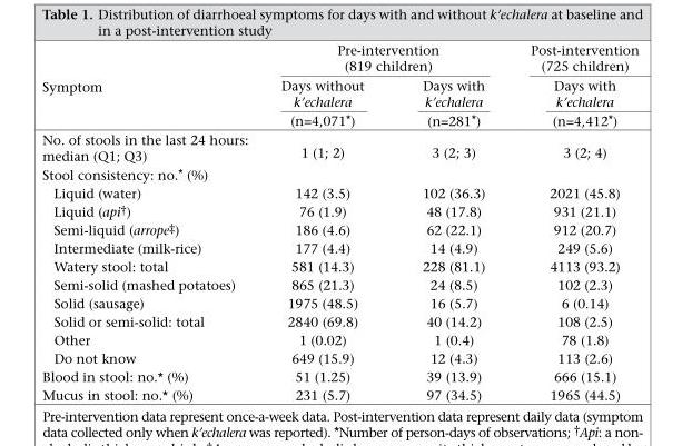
<table><thead><tr><td rowspan="3">Symptom</td><td colspan="2">Pre-intervention (819 children)</td><td rowspan="3">Post-intervention (725 children) Days with k’echalera (n=4,412*)</td></tr><tr><td rowspan="2">Days without k’echalera (n=4,071*)</td><td rowspan="2">Days with k’echalera (n=281*)</td></tr><tr></tr></thead><tbody><tr><td>No. of stools in the last 24 hours: median (Q1; Q3)</td><td>1 (1; 2)</td><td>3 (2; 3)</td><td>3 (2; 4)</td></tr><tr><td colspan="4">Stool consistency: no.* (%)</td></tr><tr><td>Liquid (water)</td><td>142 (3.5)</td><td>102 (36.3)</td><td>2021 (45.8)</td></tr><tr><td>Liquid (api†)</td><td>76 (1.9)</td><td>48 (17.8)</td><td>931 (21.1)</td></tr><tr><td>Semi-liquid (arrope‡)</td><td>186 (4.6)</td><td>62 (22.1)</td><td>912 (20.7)</td></tr><tr><td>Intermediate (milk-rice)</td><td>177 (4.4)</td><td>14 (4.9)</td><td>249 (5.6)</td></tr><tr><td>Watery stool: total</td><td>581 (14.3)</td><td>228 (81.1)</td><td>4113 (93.2)</td></tr><tr><td>Semi-solid (mashed potatoes)</td><td>865 (21.3)</td><td>24 (8.5)</td><td>102 (2.3)</td></tr><tr><td>Solid (sausage)</td><td>1975 (48.5)</td><td>16 (5.7)</td><td>6 (0.14)</td></tr><tr><td>Solid or semi-solid: total</td><td>2840 (69.8)</td><td>40 (14.2)</td><td>108 (2.5)</td></tr><tr><td>Other</td><td>1 (0.02)</td><td>1 (0.4)</td><td>78 (1.8)</td></tr><tr><td>Do not know</td><td>649 (15.9)</td><td>12 (4.3)</td><td>113 (2.6)</td></tr><tr><td>Blood in stool: no.* (%)</td><td>51 (1.25)</td><td>39 (13.9)</td><td>666 (15.1)</td></tr><tr><td>Mucus in stool: no.* (%)</td><td>231 (5.7)</td><td>97 (34.5)</td><td>1965 (44.5)</td></tr></tbody></table>